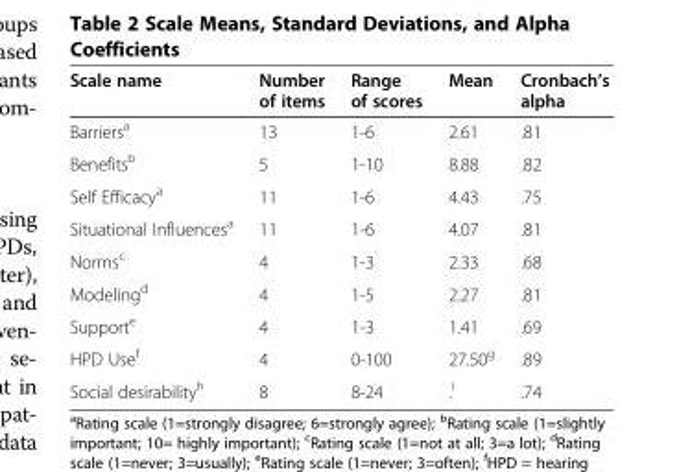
<table><thead><tr><td>Scale name</td><td>Number of items</td><td>Range of scores</td><td>Mean</td><td>Cronbach’s alpha</td></tr></thead><tbody><tr><td>Barriers<sup>a</sup></td><td>13</td><td>1-6</td><td>2.61</td><td>.81</td></tr><tr><td>Benefits<sup>b</sup></td><td>5</td><td>1-10</td><td>8.88</td><td>.82</td></tr><tr><td>Self Efficacy<sup>a</sup></td><td>11</td><td>1-6</td><td>4.43</td><td>.75</td></tr><tr><td>Situational Influences<sup>a</sup></td><td>11</td><td>1-6</td><td>4.07</td><td>.81</td></tr><tr><td>Norms<sup>c</sup></td><td>4</td><td>1-3</td><td>2.33</td><td>.68</td></tr><tr><td>Modeling<sup>d</sup></td><td>4</td><td>1-5</td><td>2.27</td><td>.81</td></tr><tr><td>Support<sup>e</sup></td><td>4</td><td>1-3</td><td>1.41</td><td>.69</td></tr><tr><td>HPD Use<sup>f</sup></td><td>4</td><td>0-100</td><td>27.50<sup>g</sup></td><td>.89</td></tr><tr><td>Social desirability<sup>h</sup></td><td>8</td><td>8-24</td><td>.<sup>i</sup></td><td>.74</td></tr></tbody></table>